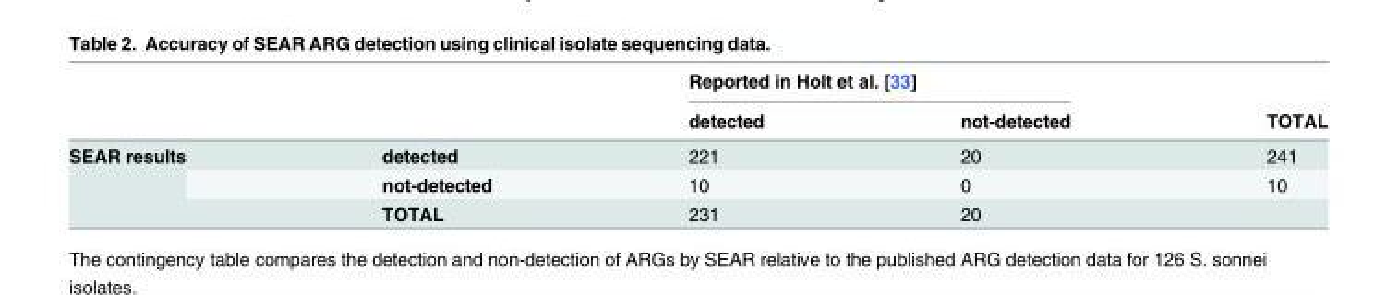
<table><thead><tr><td rowspan="2"></td><td rowspan="2"></td><td colspan="2">Reported in Holt et al. [33]</td><td rowspan="2">TOTAL</td></tr><tr><td>detected</td><td>not-detected</td></tr></thead><tbody><tr><td rowspan="3">SEAR results</td><td>detected</td><td>221</td><td>20</td><td>241</td></tr><tr><td>not-detected</td><td>10</td><td>0</td><td>10</td></tr><tr><td>TOTAL</td><td>231</td><td>20</td><td></td></tr></tbody></table>